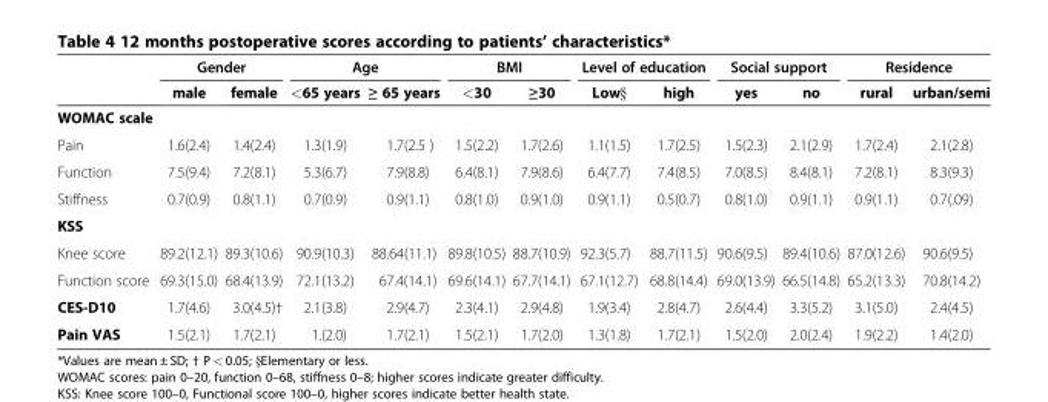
<table><thead><tr><td rowspan="2"></td><td colspan="2">Gender</td><td colspan="2">Age</td><td colspan="2">BMI</td><td colspan="2">Level of education</td><td colspan="2">Social support</td><td colspan="2">Residence</td></tr><tr><td>male</td><td>female</td><td>&lt;65 years</td><td>≥ 65 years</td><td>&lt;30</td><td>≥30</td><td>Low§</td><td>high</td><td>yes</td><td>no</td><td>rural</td><td>urban/semi</td></tr></thead><tbody><tr><td colspan="13">WOMAC scale</td></tr><tr><td>Pain</td><td>1.6(2.4)</td><td>1.4(2.4)</td><td>1.3(1.9)</td><td>1.7(2.5 )</td><td>1.5(2.2)</td><td>1.7(2.6)</td><td>1.1(1.5)</td><td>1.7(2.5)</td><td>1.5(2.3)</td><td>2.1(2.9)</td><td>1.7(2.4)</td><td>2.1(2.8)</td></tr><tr><td>Function</td><td>7.5(9.4)</td><td>7.2(8.1)</td><td>5.3(6.7)</td><td>7.9(8.8)</td><td>6.4(8.1)</td><td>7.9(8.6)</td><td>6.4(7.7)</td><td>7.4(8.5)</td><td>7.0(8.5)</td><td>8.4(8.1)</td><td>7.2(8.1)</td><td>8.3(9.3)</td></tr><tr><td>Stiffness</td><td>0.7(0.9)</td><td>0.8(1.1)</td><td>0.7(0.9)</td><td>0.9(1.1)</td><td>0.8(1.0)</td><td>0.9(1.0)</td><td>0.9(1.1)</td><td>0.5(0.7)</td><td>0.8(1.0)</td><td>0.9(1.1)</td><td>0.9(1.1)</td><td>0.7(.09)</td></tr><tr><td colspan="13">KSS</td></tr><tr><td>Knee score</td><td>89.2(12.1)</td><td>89.3(10.6)</td><td>90.9(10.3)</td><td>88.64(11.1)</td><td>89.8(10.5)</td><td>88.7(10.9)</td><td>92.3(5.7)</td><td>88.7(11.5)</td><td>90.6(9.5)</td><td>89.4(10.6)</td><td>87.0(12.6)</td><td>90.6(9.5)</td></tr><tr><td>Function score</td><td>69.3(15.0)</td><td>68.4(13.9)</td><td>72.1(13.2)</td><td>67.4(14.1)</td><td>69.6(14.1)</td><td>67.7(14.1)</td><td>67.1(12.7)</td><td>68.8(14.4)</td><td>69.0(13.9)</td><td>66.5(14.8)</td><td>65.2(13.3)</td><td>70.8(14.2)</td></tr><tr><td>CES-D10</td><td>1.7(4.6)</td><td>3.0(4.5)†</td><td>2.1(3.8)</td><td>2.9(4.7)</td><td>2.3(4.1)</td><td>2.9(4.8)</td><td>1.9(3.4)</td><td>2.8(4.7)</td><td>2.6(4.4)</td><td>3.3(5.2)</td><td>3.1(5.0)</td><td>2.4(4.5)</td></tr><tr><td>Pain VAS</td><td>1.5(2.1)</td><td>1.7(2.1)</td><td>1.(2.0)</td><td>1.7(2.1)</td><td>1.5(2.1)</td><td>1.7(2.0)</td><td>1.3(1.8)</td><td>1.7(2.1)</td><td>1.5(2.0)</td><td>2.0(2.4)</td><td>1.9(2.2)</td><td>1.4(2.0)</td></tr></tbody></table>